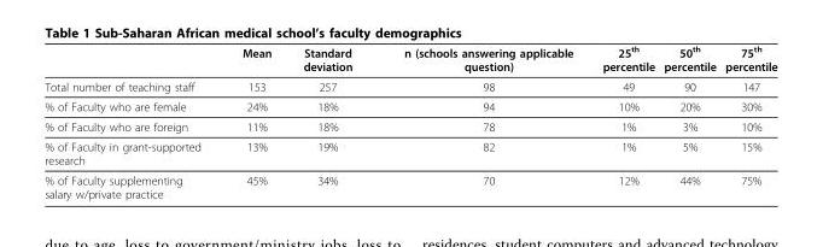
<table><thead><tr><td></td><td>Mean</td><td>Standard deviation</td><td>n (schools answering applicable question)</td><td>25<sup>th</sup> percentile</td><td>50<sup>th</sup> percentile</td><td>75<sup>th</sup> percentile</td></tr></thead><tbody><tr><td>Total number of teaching staff</td><td>153</td><td>257</td><td>98</td><td>49</td><td>90</td><td>147</td></tr><tr><td>% of Faculty who are female</td><td>24%</td><td>18%</td><td>94</td><td>10%</td><td>20%</td><td>30%</td></tr><tr><td>% of Faculty who are foreign</td><td>11%</td><td>18%</td><td>78</td><td>1%</td><td>3%</td><td>10%</td></tr><tr><td>% of Faculty in grant-supported research</td><td>13%</td><td>19%</td><td>82</td><td>1%</td><td>5%</td><td>15%</td></tr><tr><td>% of Faculty supplementing salary w/private practice</td><td>45%</td><td>34%</td><td>70</td><td>12%</td><td>44%</td><td>75%</td></tr></tbody></table>